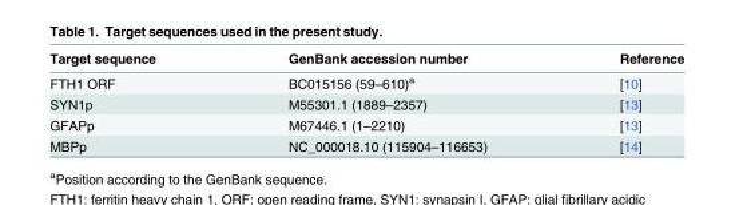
<table><thead><tr><td>Target sequence</td><td>GenBank accession number</td><td>Reference</td></tr></thead><tbody><tr><td>FTH1 ORF</td><td>BC015156 (59–610)<sup>a</sup></td><td>[10]</td></tr><tr><td>SYN1p</td><td>M55301.1 (1889–2357)</td><td>[13]</td></tr><tr><td>GFAPp</td><td>M67446.1 (1–2210)</td><td>[13]</td></tr><tr><td>MBPp</td><td>NC_000018.10 (115904–116653)</td><td>[14]</td></tr></tbody></table>